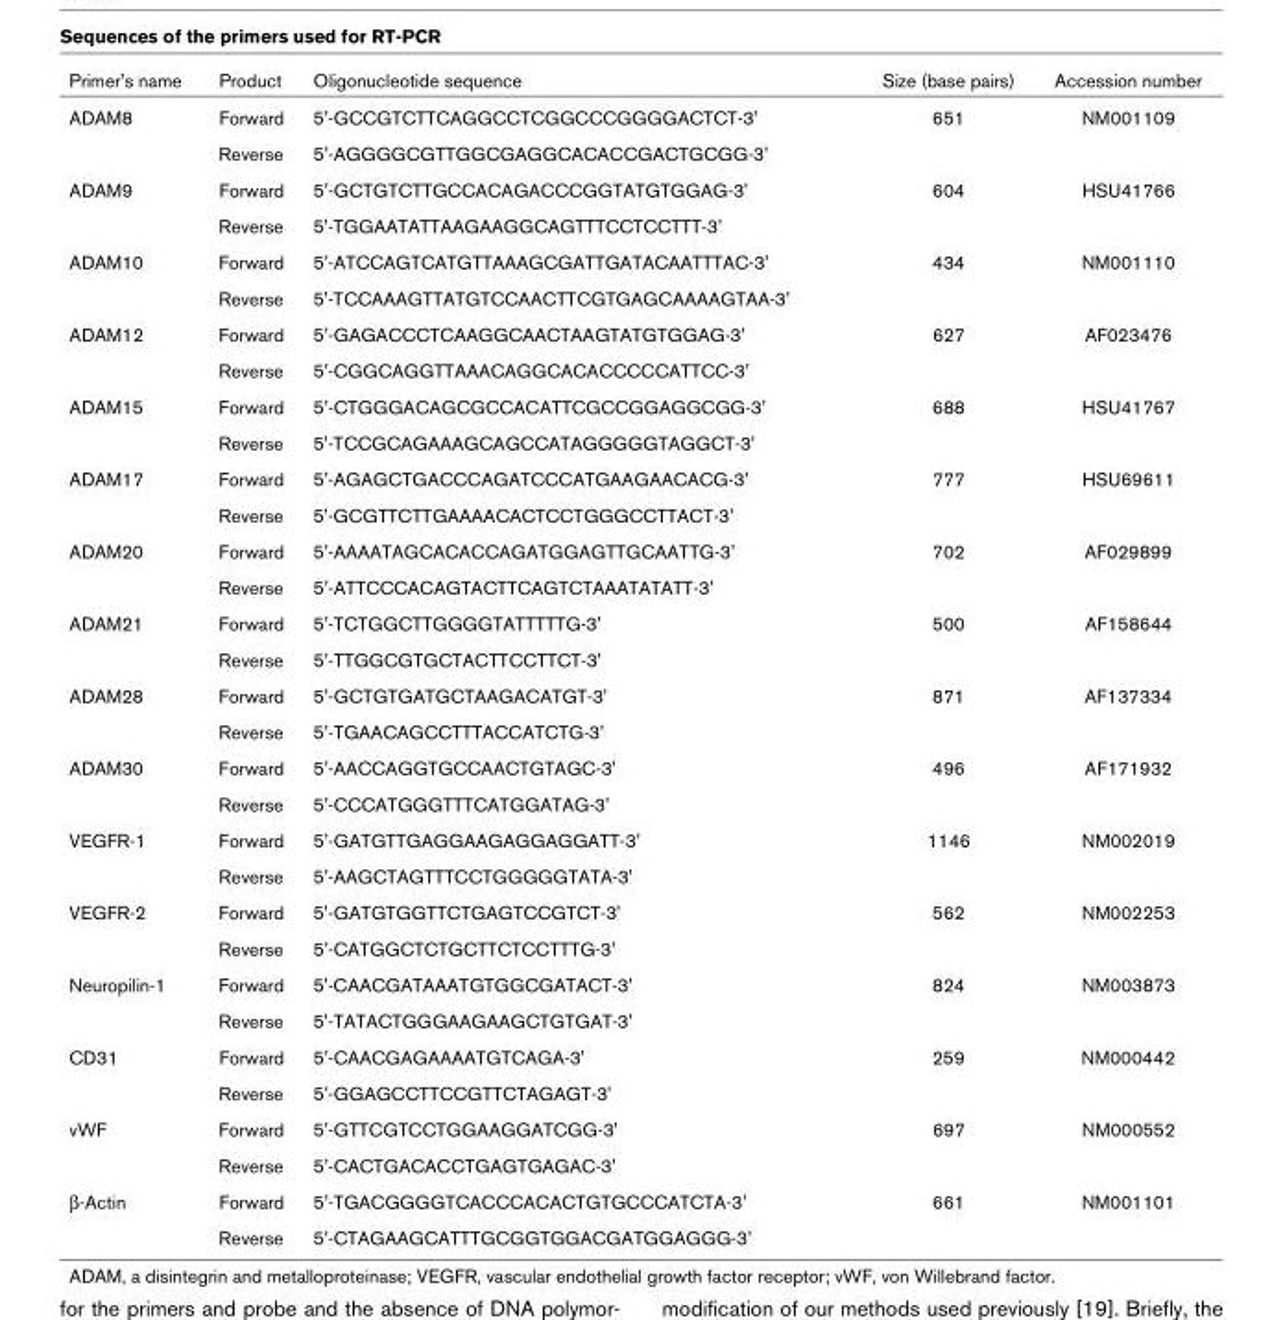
<table><thead><tr><td>Primer&#x27;s name</td><td>Product</td><td>Oligonucleotide sequence</td><td>Size (base pairs)</td><td>Accession number</td></tr></thead><tbody><tr><td rowspan="2">ADAM8</td><td>Forward</td><td>5&#x27;-GCCGTCTTCAGGCCTCGGCCCGGGGACTCT-3&#x27;</td><td>651</td><td>NM001109</td></tr><tr><td>Reverse</td><td>5&#x27;-AGGGGCGTTGGCGAGGCACACCGACTGCGG-3&#x27;</td><td></td><td></td></tr><tr><td rowspan="2">ADAM9</td><td>Forward</td><td>5&#x27;-GCTGTCTTGCCACAGACCCGGTATGTGGAG-3&#x27;</td><td>604</td><td>HSU41766</td></tr><tr><td>Reverse</td><td>5&#x27;-TGGAATATTAAGAAGGCAGTTTCCTCCTTT-3&#x27;</td><td></td><td></td></tr><tr><td rowspan="2">ADAM10</td><td>Forward</td><td>5&#x27;-ATCCAGTCATGTTAAAGCGATTGATACAATTTAC-3&#x27;</td><td>434</td><td>NM001110</td></tr><tr><td>Reverse</td><td>5&#x27;-TCCAAAGTTATGTCCAACTTCGTGAGCAAAAGTAA-3&#x27;</td><td></td><td></td></tr><tr><td rowspan="2">ADAM12</td><td>Forward</td><td>5&#x27;-GAGACCCTCAAGGCAACTAAGTATGTGGAG-3&#x27;</td><td>627</td><td>AF023476</td></tr><tr><td>Reverse</td><td>5&#x27;-CGGCAGGTTAAACAGGCACACCCCCATTCC-3&#x27;</td><td></td><td></td></tr><tr><td rowspan="2">ADAM15</td><td>Forward</td><td>5&#x27;-CTGGGACAGCGCCACATTCGCCGGAGGCGG-3&#x27;</td><td>688</td><td>HSU41767</td></tr><tr><td>Reverse</td><td>5&#x27;-TCCGCAGAAAGCAGCCATAGGGGGTAGGCT-3&#x27;</td><td></td><td></td></tr><tr><td rowspan="2">ADAM17</td><td>Forward</td><td>5&#x27;-AGAGCTGACCCAGATCCCATGAAGAACACG-3&#x27;</td><td>777</td><td>HSU69611</td></tr><tr><td>Reverse</td><td>5&#x27;-GCGTTCTTGAAAACACTCCTGGGCCTTACT-3&#x27;</td><td></td><td></td></tr><tr><td rowspan="2">ADAM20</td><td>Forward</td><td>5&#x27;-AAAATAGCACACCAGATGGAGTTGCAATTG-3&#x27;</td><td>702</td><td>AF029899</td></tr><tr><td>Reverse</td><td>5&#x27;-ATTCCCACAGTACTTCAGTCTAAATATATT-3&#x27;</td><td></td><td></td></tr><tr><td rowspan="2">ADAM21</td><td>Forward</td><td>5&#x27;-TCTGGCTTGGGGTATTTTTG-3&#x27;</td><td>500</td><td>AF158644</td></tr><tr><td>Reverse</td><td>5&#x27;-TTGGCGTGCTACTTCCTTCT-3&#x27;</td><td></td><td></td></tr><tr><td rowspan="2">ADAM28</td><td>Forward</td><td>5&#x27;-GCTGTGATGCTAAGACATGT-3&#x27;</td><td>871</td><td>AF137334</td></tr><tr><td>Reverse</td><td>5&#x27;-TGAACAGCCTTTACCATCTG-3&#x27;</td><td></td><td></td></tr><tr><td rowspan="2">ADAM30</td><td>Forward</td><td>5&#x27;-AACCAGGTGCCAACTGTAGC-3&#x27;</td><td>496</td><td>AF171932</td></tr><tr><td>Reverse</td><td>5&#x27;-CCCATGGGTTTCATGGATAG-3&#x27;</td><td></td><td></td></tr><tr><td rowspan="2">VEGFR-1</td><td>Forward</td><td>5&#x27;-GATGTTGAGGAAGAGGAGGATT-3&#x27;</td><td>1146</td><td>NM002019</td></tr><tr><td>Reverse</td><td>5&#x27;-AAGCTAGTTTCCTGGGGGTATA-3&#x27;</td><td></td><td></td></tr><tr><td rowspan="2">VEGFR-2</td><td>Forward</td><td>5&#x27;-GATGTGGTTCTGAGTCCGTCT-3&#x27;</td><td>562</td><td>NM002253</td></tr><tr><td>Reverse</td><td>5&#x27;-CATGGCTCTGCTTCTCCTTTG-3&#x27;</td><td></td><td></td></tr><tr><td rowspan="2">Neuropilin-1</td><td>Forward</td><td>5&#x27;-CAACGATAAATGTGGCGATACT-3&#x27;</td><td>824</td><td>NM003873</td></tr><tr><td>Reverse</td><td>5&#x27;-TATACTGGGAAGAAGCTGTGAT-3&#x27;</td><td></td><td></td></tr><tr><td rowspan="2">CD31</td><td>Forward</td><td>5&#x27;-CAACGAGAAAATGTCAGA-3&#x27;</td><td>259</td><td>NM000442</td></tr><tr><td>Reverse</td><td>5&#x27;-GGAGCCTTCCGTTCTAGAGT-3&#x27;</td><td></td><td></td></tr><tr><td rowspan="2">vWF</td><td>Forward</td><td>5&#x27;-GTTCGTCCTGGAAGGATCGG-3&#x27;</td><td>697</td><td>NM000552</td></tr><tr><td>Reverse</td><td>5&#x27;-CACTGACACCTGAGTGAGAC-3&#x27;</td><td></td><td></td></tr><tr><td rowspan="2">β-Actin</td><td>Forward</td><td>5&#x27;-TGACGGGGTCACCCACACTGTGCCCATCTA-3&#x27;</td><td>661</td><td>NM001101</td></tr><tr><td>Reverse</td><td>5&#x27;-CTAGAAGCATTTGCGGTGGACGATGGAGGG-3&#x27;</td><td></td><td></td></tr></tbody></table>